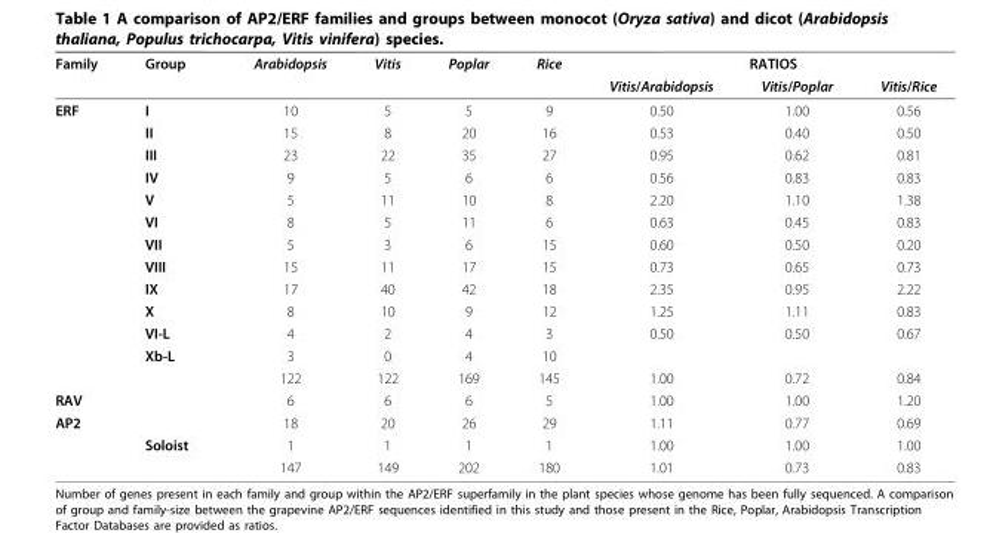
<table><thead><tr><td rowspan="2">Family</td><td rowspan="2">Group</td><td rowspan="2">Arabidopsis</td><td rowspan="2">Vitis</td><td rowspan="2">Poplar</td><td rowspan="2">Rice</td><td colspan="3">RATIOS</td></tr><tr><td>Vitis/Arabidopsis</td><td>Vitis/Poplar</td><td>Vitis/Rice</td></tr></thead><tbody><tr><td rowspan="13">ERF</td><td>I</td><td>10</td><td>5</td><td>5</td><td>9</td><td>0.50</td><td>1.00</td><td>0.56</td></tr><tr><td>II</td><td>15</td><td>8</td><td>20</td><td>16</td><td>0.53</td><td>0.40</td><td>0.50</td></tr><tr><td>III</td><td>23</td><td>22</td><td>35</td><td>27</td><td>0.95</td><td>0.62</td><td>0.81</td></tr><tr><td>IV</td><td>9</td><td>5</td><td>6</td><td>6</td><td>0.56</td><td>0.83</td><td>0.83</td></tr><tr><td>V</td><td>5</td><td>11</td><td>10</td><td>8</td><td>2.20</td><td>1.10</td><td>1.38</td></tr><tr><td>VI</td><td>8</td><td>5</td><td>11</td><td>6</td><td>0.63</td><td>0.45</td><td>0.83</td></tr><tr><td>VII</td><td>5</td><td>3</td><td>6</td><td>15</td><td>0.60</td><td>0.50</td><td>0.20</td></tr><tr><td>VIII</td><td>15</td><td>11</td><td>17</td><td>15</td><td>0.73</td><td>0.65</td><td>0.73</td></tr><tr><td>IX</td><td>17</td><td>40</td><td>42</td><td>18</td><td>2.35</td><td>0.95</td><td>2.22</td></tr><tr><td>X</td><td>8</td><td>10</td><td>9</td><td>12</td><td>1.25</td><td>1.11</td><td>0.83</td></tr><tr><td>VI-L</td><td>4</td><td>2</td><td>4</td><td>3</td><td>0.50</td><td>0.50</td><td>0.67</td></tr><tr><td>Xb-L</td><td>3</td><td>0</td><td>4</td><td>10</td><td></td><td></td><td></td></tr><tr><td></td><td>122</td><td>122</td><td>169</td><td>145</td><td>1.00</td><td>0.72</td><td>0.84</td></tr><tr><td>RAV</td><td></td><td>6</td><td>6</td><td>6</td><td>5</td><td>1.00</td><td>1.00</td><td>1.20</td></tr><tr><td rowspan="3">AP2</td><td></td><td>18</td><td>20</td><td>26</td><td>29</td><td>1.11</td><td>0.77</td><td>0.69</td></tr><tr><td>Soloist</td><td>1</td><td>1</td><td>1</td><td>1</td><td>1.00</td><td>1.00</td><td>1.00</td></tr><tr><td></td><td>147</td><td>149</td><td>202</td><td>180</td><td>1.01</td><td>0.73</td><td>0.83</td></tr></tbody></table>